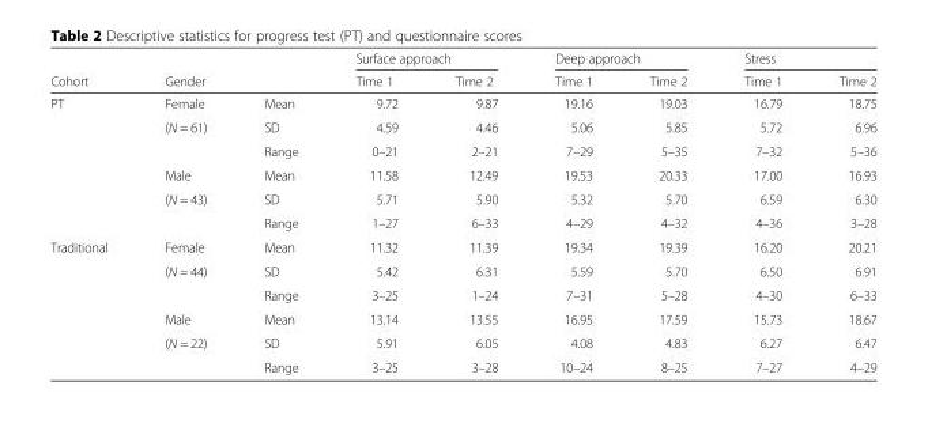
<table><thead><tr><td rowspan="2">Cohort</td><td rowspan="2">Gender</td><td rowspan="2"></td><td colspan="2">Surface approach</td><td colspan="2">Deep approach</td><td colspan="2">Stress</td></tr><tr><td>Time 1</td><td>Time 2</td><td>Time 1</td><td>Time 2</td><td>Time 1</td><td>Time 2</td></tr></thead><tbody><tr><td rowspan="6">PT</td><td>Female</td><td>Mean</td><td>9.72</td><td>9.87</td><td>19.16</td><td>19.03</td><td>16.79</td><td>18.75</td></tr><tr><td>(N = 61)</td><td>SD</td><td>4.59</td><td>4.46</td><td>5.06</td><td>5.85</td><td>5.72</td><td>6.96</td></tr><tr><td></td><td>Range</td><td>0–21</td><td>2–21</td><td>7–29</td><td>5–35</td><td>7–32</td><td>5–36</td></tr><tr><td>Male</td><td>Mean</td><td>11.58</td><td>12.49</td><td>19.53</td><td>20.33</td><td>17.00</td><td>16.93</td></tr><tr><td>(N = 43)</td><td>SD</td><td>5.71</td><td>5.90</td><td>5.32</td><td>5.70</td><td>6.59</td><td>6.30</td></tr><tr><td></td><td>Range</td><td>1–27</td><td>6–33</td><td>4–29</td><td>4–32</td><td>4–36</td><td>3–28</td></tr><tr><td rowspan="6">Traditional</td><td>Female</td><td>Mean</td><td>11.32</td><td>11.39</td><td>19.34</td><td>19.39</td><td>16.20</td><td>20.21</td></tr><tr><td>(N = 44)</td><td>SD</td><td>5.42</td><td>6.31</td><td>5.59</td><td>5.70</td><td>6.50</td><td>6.91</td></tr><tr><td></td><td>Range</td><td>3–25</td><td>1–24</td><td>7–31</td><td>5–28</td><td>4–30</td><td>6–33</td></tr><tr><td>Male</td><td>Mean</td><td>13.14</td><td>13.55</td><td>16.95</td><td>17.59</td><td>15.73</td><td>18.67</td></tr><tr><td>(N = 22)</td><td>SD</td><td>5.91</td><td>6.05</td><td>4.08</td><td>4.83</td><td>6.27</td><td>6.47</td></tr><tr><td></td><td>Range</td><td>3–25</td><td>3–28</td><td>10–24</td><td>8–25</td><td>7–27</td><td>4–29</td></tr></tbody></table>